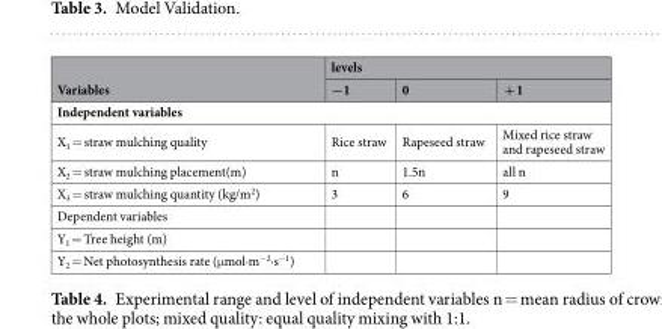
<table><thead><tr><td rowspan="2">Variables</td><td colspan="3">levels</td></tr><tr><td>−1</td><td>0</td><td>+ 1</td></tr></thead><tbody><tr><td colspan="4">Independent variables</td></tr><tr><td>X<sub>1</sub> = straw mulching quality</td><td>Rice straw</td><td>Rapeseed straw</td><td>Mixed rice straw and rapeseed straw</td></tr><tr><td>X<sub>2</sub> = straw mulching placement(m)</td><td>n</td><td>1.5n</td><td>all n</td></tr><tr><td>X<sub>3</sub> = straw mulching quantity (kg/m<sup>2</sup>)</td><td>3</td><td>6</td><td>9</td></tr><tr><td colspan="4">Dependent variables</td></tr><tr><td colspan="4">Y<sub>1</sub> = Tree height (m)</td></tr><tr><td>Y<sub>2</sub> = Net photosynthesis rate (μmol·m<sup>−2</sup>·s<sup>−1</sup>)</td><td></td><td></td><td></td></tr></tbody></table>